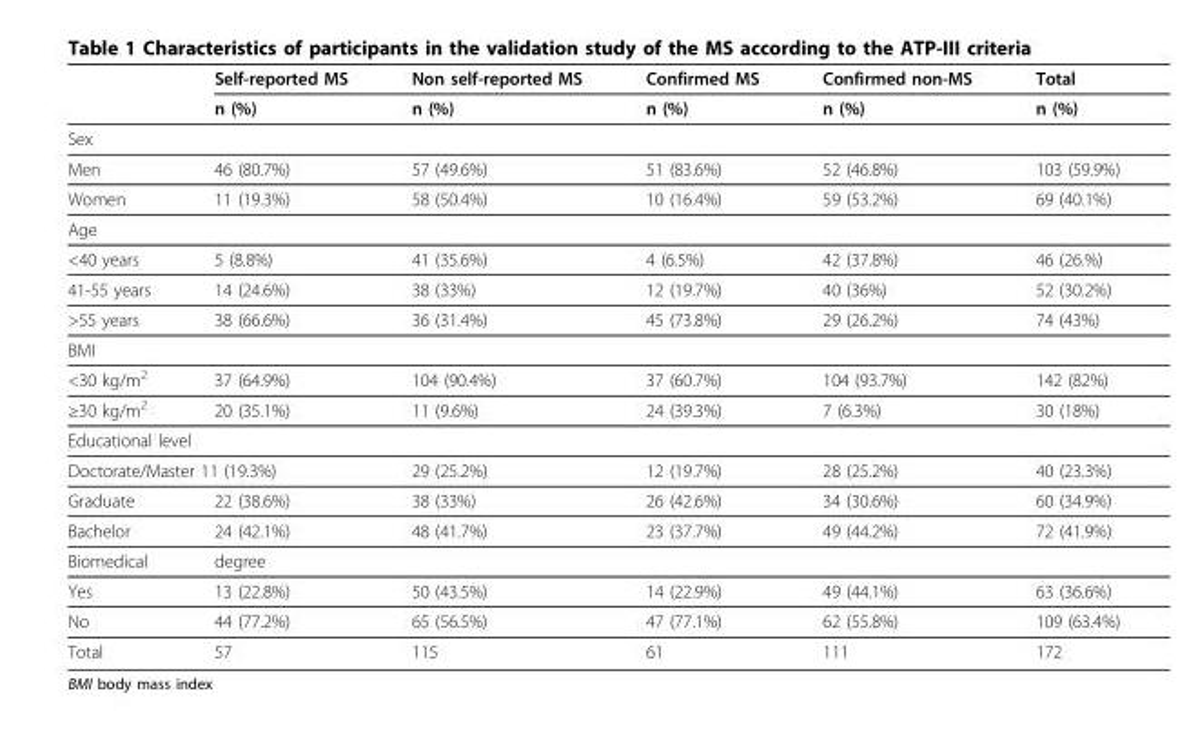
<table><thead><tr><td rowspan="2"></td><td rowspan="2">Self-reported MS n (%)</td><td rowspan="2">Non self-reported MS n (%)</td><td rowspan="2">Confirmed MS n (%)</td><td rowspan="2">Confirmed non-MS n (%)</td><td rowspan="2">Total n (%)</td></tr><tr></tr></thead><tbody><tr><td colspan="6">Sex</td></tr><tr><td>Men</td><td>46 (80.7%)</td><td>57 (49.6%)</td><td>51 (83.6%)</td><td>52 (46.8%)</td><td>103 (59.9%)</td></tr><tr><td>Women</td><td>11 (19.3%)</td><td>58 (50.4%)</td><td>10 (16.4%)</td><td>59 (53.2%)</td><td>69 (40.1%)</td></tr><tr><td colspan="6">Age</td></tr><tr><td>&lt;40 years</td><td>5 (8.8%)</td><td>41 (35.6%)</td><td>4 (6.5%)</td><td>42 (37.8%)</td><td>46 (26.%)</td></tr><tr><td>41-55 years</td><td>14 (24.6%)</td><td>38 (33%)</td><td>12 (19.7%)</td><td>40 (36%)</td><td>52 (30.2%)</td></tr><tr><td>&gt;55 years</td><td>38 (66.6%)</td><td>36 (31.4%)</td><td>45 (73.8%)</td><td>29 (26.2%)</td><td>74 (43%)</td></tr><tr><td colspan="6">BMI</td></tr><tr><td>&lt;30 kg/m<sup>2</sup></td><td>37 (64.9%)</td><td>104 (90.4%)</td><td>37 (60.7%)</td><td>104 (93.7%)</td><td>142 (82%)</td></tr><tr><td>≥30 kg/m<sup>2</sup></td><td>20 (35.1%)</td><td>11 (9.6%)</td><td>24 (39.3%)</td><td>7 (6.3%)</td><td>30 (18%)</td></tr><tr><td colspan="6">Educational level</td></tr><tr><td colspan="2">Doctorate/Master 11 (19.3%)</td><td>29 (25.2%)</td><td>12 (19.7%)</td><td>28 (25.2%)</td><td>40 (23.3%)</td></tr><tr><td>Graduate</td><td>22 (38.6%)</td><td>38 (33%)</td><td>26 (42.6%)</td><td>34 (30.6%)</td><td>60 (34.9%)</td></tr><tr><td>Bachelor</td><td>24 (42.1%)</td><td>48 (41.7%)</td><td>23 (37.7%)</td><td>49 (44.2%)</td><td>72 (41.9%)</td></tr><tr><td>Biomedical</td><td>degree</td><td></td><td></td><td></td><td></td></tr><tr><td>Yes</td><td>13 (22.8%)</td><td>50 (43.5%)</td><td>14 (22.9%)</td><td>49 (44.1%)</td><td>63 (36.6%)</td></tr><tr><td>No</td><td>44 (77.2%)</td><td>65 (56.5%)</td><td>47 (77.1%)</td><td>62 (55.8%)</td><td>109 (63.4%)</td></tr><tr><td>Total</td><td>57</td><td>115</td><td>61</td><td>111</td><td>172</td></tr></tbody></table>